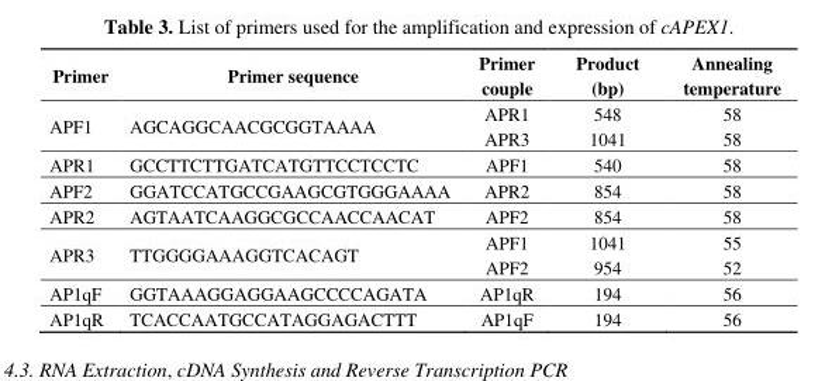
<table><thead><tr><td>Primer</td><td>Primer sequence</td><td>Primer couple</td><td>Product (bp)</td><td>Annealing temperature</td></tr></thead><tbody><tr><td>APF1</td><td>AGCAGGCAACGCGGTAAAA</td><td>APR1 APR3</td><td>548 1041</td><td>58 58</td></tr><tr><td>APR1</td><td>GCCTTCTTGATCATGTTCCTCCTC</td><td>APF1</td><td>540</td><td>58</td></tr><tr><td>APF2</td><td>GGATCCATGCCGAAGCGTGGGAAAA</td><td>APR2</td><td>854</td><td>58</td></tr><tr><td>APR2</td><td>AGTAATCAAGGCGCCAACCAACAT</td><td>APF2</td><td>854</td><td>58</td></tr><tr><td>APR3</td><td>TTGGGGAAAGGTCACAGT</td><td>APF1 APF2</td><td>1041 954</td><td>55 52</td></tr><tr><td>AP1qF</td><td>GGTAAAGGAGGAAGCCCCAGATA</td><td>AP1qR</td><td>194</td><td>56</td></tr><tr><td>AP1qR</td><td>TCACCAATGCCATAGGAGACTTT</td><td>AP1qF</td><td>194</td><td>56</td></tr></tbody></table>